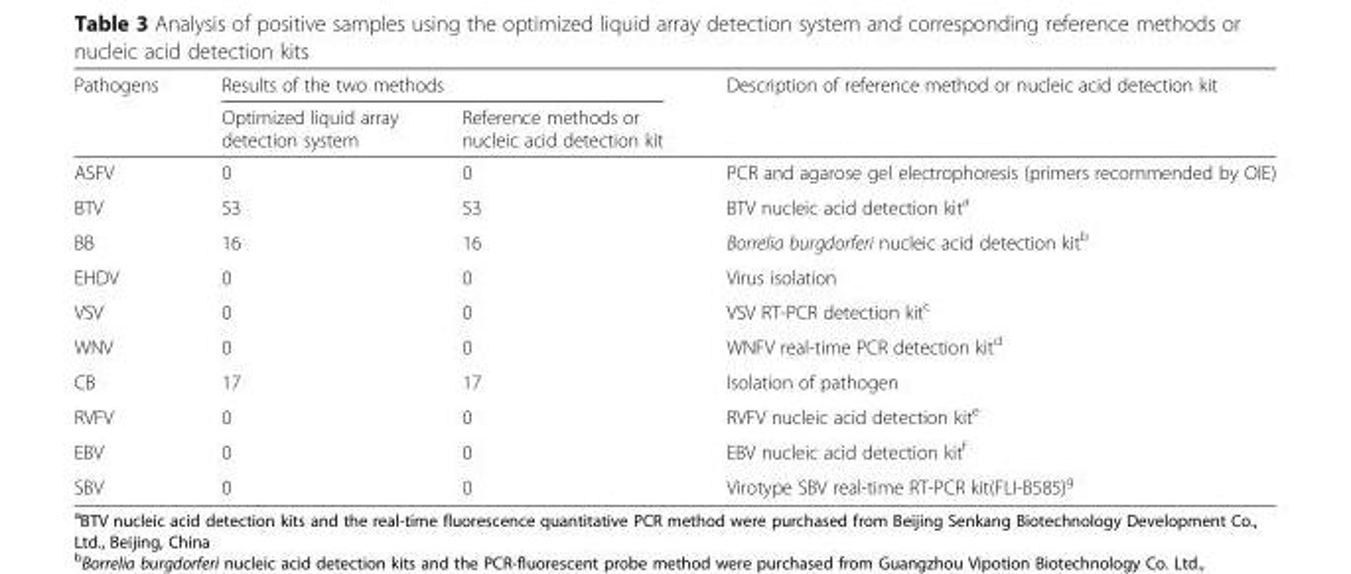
<table><thead><tr><td rowspan="2">Pathogens</td><td colspan="2">Results of the two methods</td><td rowspan="2">Description of reference method or nucleic acid detection kit</td></tr><tr><td>Optimized liquid array detection system</td><td>Reference methods or nucleic acid detection kit</td></tr></thead><tbody><tr><td>ASFV</td><td>0</td><td>0</td><td>PCR and agarose gel electrophoresis (primers recommended by OIE)</td></tr><tr><td>BTV</td><td>53</td><td>53</td><td>BTV nucleic acid detection kit<sup>a</sup></td></tr><tr><td>BB</td><td>16</td><td>16</td><td>Borrelia burgdorferi nucleic acid detection kit<sup>b</sup></td></tr><tr><td>EHDV</td><td>0</td><td>0</td><td>Virus isolation</td></tr><tr><td>VSV</td><td>0</td><td>0</td><td>VSV RT-PCR detection kit<sup>c</sup></td></tr><tr><td>WNV</td><td>0</td><td>0</td><td>WNFV real-time PCR detection kit<sup>d</sup></td></tr><tr><td>CB</td><td>17</td><td>17</td><td>Isolation of pathogen</td></tr><tr><td>RVFV</td><td>0</td><td>0</td><td>RVFV nucleic acid detection kit<sup>e</sup></td></tr><tr><td>EBV</td><td>0</td><td>0</td><td>EBV nucleic acid detection kit<sup>f</sup></td></tr><tr><td>SBV</td><td>0</td><td>0</td><td>Virotype SBV real-time RT-PCR kit(FLI-B585)<sup>g</sup></td></tr></tbody></table>